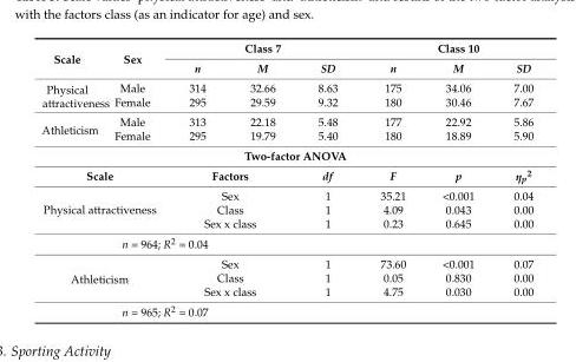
<table><tbody><tr><td rowspan="2">Scale</td><td rowspan="2">Sex</td><td colspan="3">Class 7</td><td colspan="3">Class 10</td></tr><tr><td>n</td><td>M</td><td>SD</td><td>n</td><td>M</td><td>SD</td></tr><tr><td rowspan="2">Physical attractiveness</td><td>Male</td><td>314</td><td>32.66</td><td>8.63</td><td>175</td><td>34.06</td><td>7.00</td></tr><tr><td>Female</td><td>295</td><td>29.59</td><td>9.32</td><td>180</td><td>30.46</td><td>7.67</td></tr><tr><td rowspan="2">Athleticism</td><td>Male</td><td>313</td><td>22.18</td><td>5.48</td><td>177</td><td>22.92</td><td>5.86</td></tr><tr><td>Female</td><td>295</td><td>19.79</td><td>5.40</td><td>180</td><td>18.89</td><td>5.90</td></tr><tr><td colspan="8">Two-factor ANOVA</td></tr><tr><td colspan="2">Scale</td><td colspan="2">Factors</td><td>df</td><td>F</td><td>p</td><td>η<sub>p</sub><sup>2</sup></td></tr><tr><td rowspan="3" colspan="2">Physical attractiveness</td><td colspan="2">Sex</td><td>1</td><td>35.21</td><td>&lt;0.001</td><td>0.04</td></tr><tr><td colspan="2">Class</td><td>1</td><td>4.09</td><td>0.043</td><td>0.00</td></tr><tr><td colspan="2">Sex x class</td><td>1</td><td>0.23</td><td>0.645</td><td>0.00</td></tr><tr><td colspan="8">n = 964; R<sup>2</sup> = 0.04</td></tr><tr><td rowspan="3" colspan="2">Athleticism</td><td colspan="2">Sex</td><td>1</td><td>73.60</td><td>&lt;0.001</td><td>0.07</td></tr><tr><td colspan="2">Class</td><td>1</td><td>0.05</td><td>0.830</td><td>0.00</td></tr><tr><td colspan="2">Sex x class</td><td>1</td><td>4.75</td><td>0.030</td><td>0.00</td></tr><tr><td colspan="4">n = 965; R<sup>2</sup> = 0.07</td><td></td><td></td><td></td><td></td></tr></tbody></table>